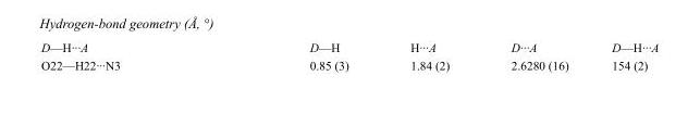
<table><tbody><tr><td>D—H···A</td><td>D—H</td><td>H···A</td><td>D···A</td><td>D—H···A</td></tr><tr><td>O22—H22···N3</td><td>0.85 (3)</td><td>1.84 (2)</td><td>2.6280 (16)</td><td>154 (2)</td></tr></tbody></table>